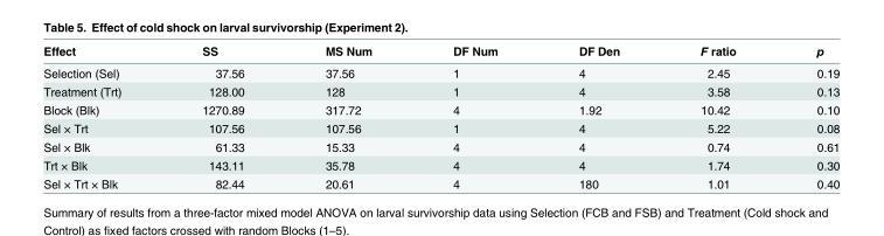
<table><thead><tr><td>Effect</td><td>SS</td><td>MS Num</td><td>DF Num</td><td>DF Den</td><td>F ratio</td><td>p</td></tr></thead><tbody><tr><td>Selection (Sel)</td><td>37.56</td><td>37.56</td><td>1</td><td>4</td><td>2.45</td><td>0.19</td></tr><tr><td>Treatment (Trt)</td><td>128.00</td><td>128</td><td>1</td><td>4</td><td>3.58</td><td>0.13</td></tr><tr><td>Block (Blk)</td><td>1270.89</td><td>317.72</td><td>4</td><td>1.92</td><td>10.42</td><td>0.10</td></tr><tr><td>Sel × Trt</td><td>107.56</td><td>107.56</td><td>1</td><td>4</td><td>5.22</td><td>0.08</td></tr><tr><td>Sel × Blk</td><td>61.33</td><td>15.33</td><td>4</td><td>4</td><td>0.74</td><td>0.61</td></tr><tr><td>Trt × Blk</td><td>143.11</td><td>35.78</td><td>4</td><td>4</td><td>1.74</td><td>0.30</td></tr><tr><td>Sel × Trt × Blk</td><td>82.44</td><td>20.61</td><td>4</td><td>180</td><td>1.01</td><td>0.40</td></tr></tbody></table>